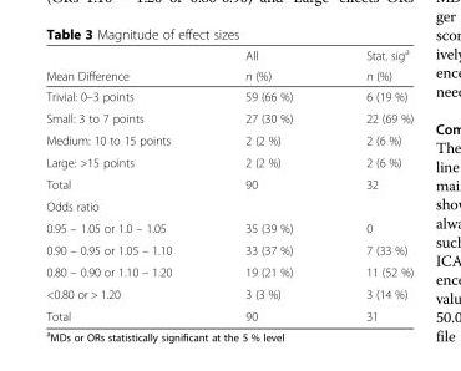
<table><thead><tr><td rowspan="2">Mean Difference</td><td rowspan="2">All n (%)</td><td rowspan="2">Stat. sig<sup>a</sup> n (%)</td></tr><tr></tr></thead><tbody><tr><td>Trivial: 0–3 points</td><td>59 (66 %)</td><td>6 (19 %)</td></tr><tr><td>Small: 3 to 7 points</td><td>27 (30 %)</td><td>22 (69 %)</td></tr><tr><td>Medium: 10 to 15 points</td><td>2 (2 %)</td><td>2 (6 %)</td></tr><tr><td>Large: &gt;15 points</td><td>2 (2 %)</td><td>2 (6 %)</td></tr><tr><td>Total</td><td>90</td><td>32</td></tr><tr><td colspan="3">Odds ratio</td></tr><tr><td>0.95 – 1.05 or 1.0 – 1.05</td><td>35 (39 %)</td><td>0</td></tr><tr><td>0.90 – 0.95 or 1.05 – 1.10</td><td>33 (37 %)</td><td>7 (33 %)</td></tr><tr><td>0.80 – 0.90 or 1.10 – 1.20</td><td>19 (21 %)</td><td>11 (52 %)</td></tr><tr><td>&lt;0.80 or &gt; 1.20</td><td>3 (3 %)</td><td>3 (14 %)</td></tr><tr><td>Total</td><td>90</td><td>31</td></tr></tbody></table>